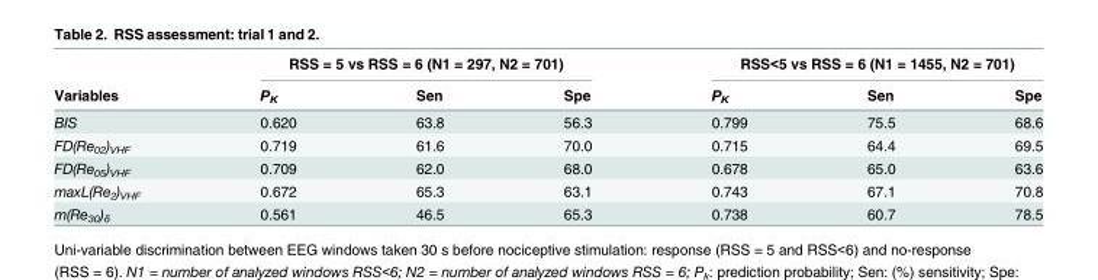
<table><thead><tr><td rowspan="2">Variables</td><td colspan="3">RSS = 5 vs RSS = 6 (N1 = 297, N2 = 701)</td><td colspan="3">RSS&lt;5 vs RSS = 6 (N1 = 1455, N2 = 701)</td></tr><tr><td>P<sub>K</sub></td><td>Sen</td><td>Spe</td><td>P<sub>K</sub></td><td>Sen</td><td>Spe</td></tr></thead><tbody><tr><td>BIS</td><td>0.620</td><td>63.8</td><td>56.3</td><td>0.799</td><td>75.5</td><td>68.6</td></tr><tr><td>FD(Re<sub>02</sub>)<sub>VHF</sub></td><td>0.719</td><td>61.6</td><td>70.0</td><td>0.715</td><td>64.4</td><td>69.5</td></tr><tr><td>FD(Re<sub>05</sub>)<sub>VHF</sub></td><td>0.709</td><td>62.0</td><td>68.0</td><td>0.678</td><td>65.0</td><td>63.6</td></tr><tr><td>maxL(Re<sub>2</sub>)<sub>VHF</sub></td><td>0.672</td><td>65.3</td><td>63.1</td><td>0.743</td><td>67.1</td><td>70.8</td></tr><tr><td>m(Re<sub>30</sub>)<sub>δ</sub></td><td>0.561</td><td>46.5</td><td>65.3</td><td>0.738</td><td>60.7</td><td>78.5</td></tr></tbody></table>